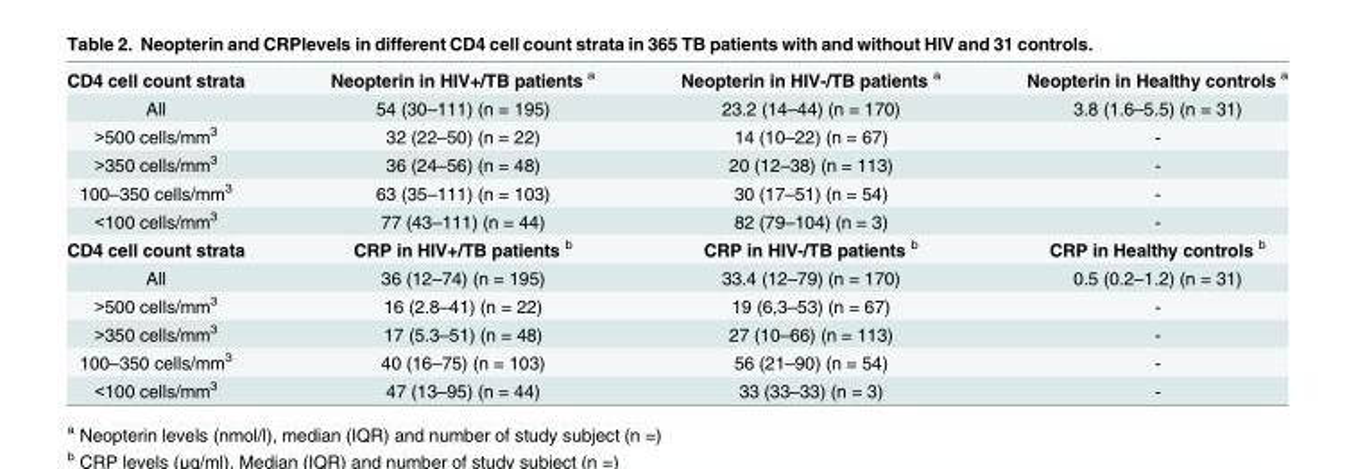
<table><tbody><tr><td>CD4 cell count strata</td><td>Neopterin in HIV+/TB patients <sup>a</sup></td><td>Neopterin in HIV-/TB patients <sup>a</sup></td><td>Neopterin in Healthy controls <sup>a</sup></td></tr><tr><td>All</td><td>54 (30–111) (n = 195)</td><td>23.2 (14–44) (n = 170)</td><td>3.8 (1.6–5.5) (n = 31)</td></tr><tr><td>&gt;500 cells/mm<sup>3</sup></td><td>32 (22–50) (n = 22)</td><td>14 (10–22) (n = 67)</td><td>-</td></tr><tr><td>&gt;350 cells/mm<sup>3</sup></td><td>36 (24–56) (n = 48)</td><td>20 (12–38) (n = 113)</td><td>-</td></tr><tr><td>100–350 cells/mm<sup>3</sup></td><td>63 (35–111) (n = 103)</td><td>30 (17–51) (n = 54)</td><td>-</td></tr><tr><td>&lt;100 cells/mm<sup>3</sup></td><td>77 (43–111) (n = 44)</td><td>82 (79–104) (n = 3)</td><td>-</td></tr><tr><td>CD4 cell count strata</td><td>CRP in HIV+/TB patients <sup>b</sup></td><td>CRP in HIV-/TB patients <sup>b</sup></td><td>CRP in Healthy controls <sup>b</sup></td></tr><tr><td>All</td><td>36 (12–74) (n = 195)</td><td>33.4 (12–79) (n = 170)</td><td>0.5 (0.2–1.2) (n = 31)</td></tr><tr><td>&gt;500 cells/mm<sup>3</sup></td><td>16 (2.8–41) (n = 22)</td><td>19 (6,3–53) (n = 67)</td><td>-</td></tr><tr><td>&gt;350 cells/mm<sup>3</sup></td><td>17 (5.3–51) (n = 48)</td><td>27 (10–66) (n = 113)</td><td>-</td></tr><tr><td>100–350 cells/mm<sup>3</sup></td><td>40 (16–75) (n = 103)</td><td>56 (21–90) (n = 54)</td><td>-</td></tr><tr><td>&lt;100 cells/mm<sup>3</sup></td><td>47 (13–95) (n = 44)</td><td>33 (33–33) (n = 3)</td><td>-</td></tr></tbody></table>